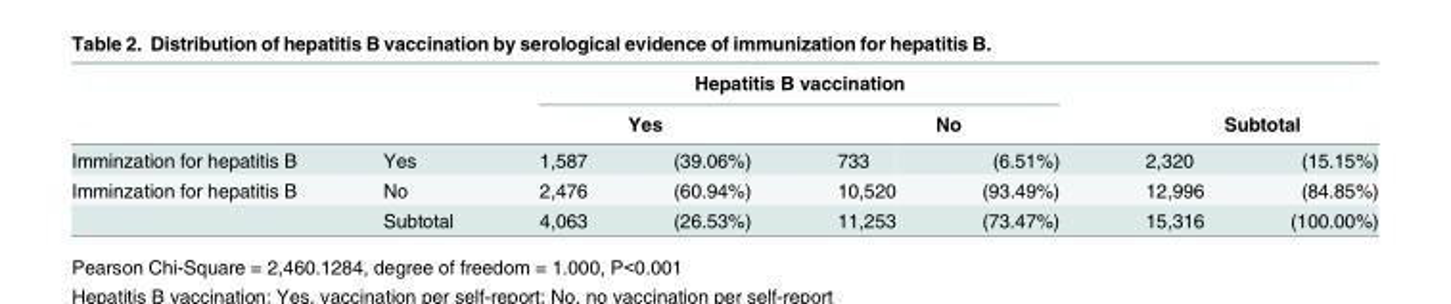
<table><thead><tr><td rowspan="3">Imminzation for hepatitis B</td><td rowspan="3">Yes</td><td colspan="4">Hepatitis B vaccination</td><td></td><td></td></tr><tr><td colspan="2">Yes</td><td colspan="2">No</td><td colspan="2">Subtotal</td></tr><tr><td>1,587</td><td>(39.06%)</td><td>733</td><td>(6.51%)</td><td>2,320</td><td>(15.15%)</td></tr></thead><tbody><tr><td rowspan="2">Imminzation for hepatitis B</td><td>No</td><td>2,476</td><td>(60.94%)</td><td>10,520</td><td>(93.49%)</td><td>12,996</td><td>(84.85%)</td></tr><tr><td>Subtotal</td><td>4,063</td><td>(26.53%)</td><td>11,253</td><td>(73.47%)</td><td>15,316</td><td>(100.00%)</td></tr></tbody></table>